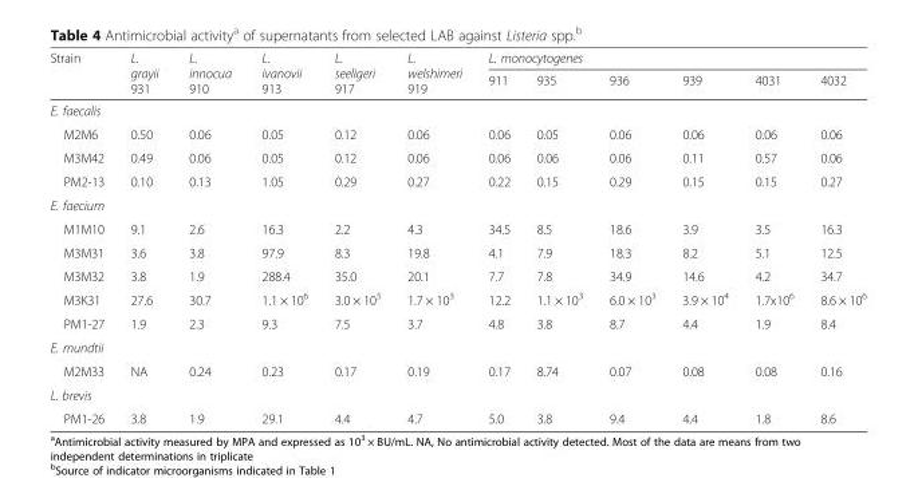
<table><thead><tr><td rowspan="2">Strain</td><td rowspan="2">L. grayii 931</td><td rowspan="2">L. innocua 910</td><td rowspan="2">L. ivanovii 913</td><td rowspan="2">L. seeligeri 917</td><td rowspan="2">L. welshimeri 919</td><td colspan="6">L. monocytogenes</td></tr><tr><td>911</td><td>935</td><td>936</td><td>939</td><td>4031</td><td>4032</td></tr></thead><tbody><tr><td colspan="12">E. faecalis</td></tr><tr><td>M2M6</td><td>0.50</td><td>0.06</td><td>0.05</td><td>0.12</td><td>0.06</td><td>0.06</td><td>0.05</td><td>0.06</td><td>0.06</td><td>0.06</td><td>0.06</td></tr><tr><td>M3M42</td><td>0.49</td><td>0.06</td><td>0.05</td><td>0.12</td><td>0.06</td><td>0.06</td><td>0.06</td><td>0.06</td><td>0.11</td><td>0.57</td><td>0.06</td></tr><tr><td>PM2-13</td><td>0.10</td><td>0.13</td><td>1.05</td><td>0.29</td><td>0.27</td><td>0.22</td><td>0.15</td><td>0.29</td><td>0.15</td><td>0.15</td><td>0.27</td></tr><tr><td colspan="12">E. faecium</td></tr><tr><td>M1M10</td><td>9.1</td><td>2.6</td><td>16.3</td><td>2.2</td><td>4.3</td><td>34.5</td><td>8.5</td><td>18.6</td><td>3.9</td><td>3.5</td><td>16.3</td></tr><tr><td>M3M31</td><td>3.6</td><td>3.8</td><td>97.9</td><td>8.3</td><td>19.8</td><td>4.1</td><td>7.9</td><td>18.3</td><td>8.2</td><td>5.1</td><td>12.5</td></tr><tr><td>M3M32</td><td>3.8</td><td>1.9</td><td>288.4</td><td>35.0</td><td>20.1</td><td>7.7</td><td>7.8</td><td>34.9</td><td>14.6</td><td>4.2</td><td>34.7</td></tr><tr><td>M3K31</td><td>27.6</td><td>30.7</td><td>1.1 × 10<sup>6</sup></td><td>3.0 × 10<sup>5</sup></td><td>1.7 × 10<sup>3</sup></td><td>12.2</td><td>1.1 × 10<sup>3</sup></td><td>6.0 × 10<sup>3</sup></td><td>3.9 × 10<sup>4</sup></td><td>1.7x10<sup>6</sup></td><td>8.6 × 10<sup>6</sup></td></tr><tr><td>PM1-27</td><td>1.9</td><td>2.3</td><td>9.3</td><td>7.5</td><td>3.7</td><td>4.8</td><td>3.8</td><td>8.7</td><td>4.4</td><td>1.9</td><td>8.4</td></tr><tr><td colspan="12">E. mundtii</td></tr><tr><td>M2M33</td><td>NA</td><td>0.24</td><td>0.23</td><td>0.17</td><td>0.19</td><td>0.17</td><td>8.74</td><td>0.07</td><td>0.08</td><td>0.08</td><td>0.16</td></tr><tr><td colspan="12">L. brevis</td></tr><tr><td>PM1-26</td><td>3.8</td><td>1.9</td><td>29.1</td><td>4.4</td><td>4.7</td><td>5.0</td><td>3.8</td><td>9.4</td><td>4.4</td><td>1.8</td><td>8.6</td></tr></tbody></table>